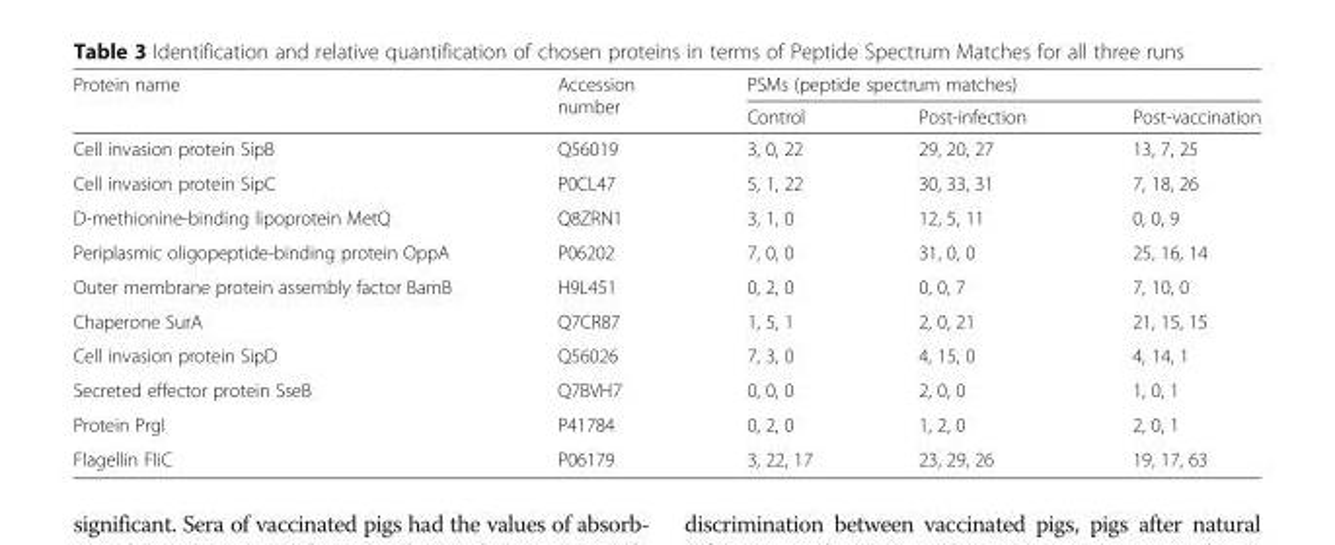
<table><thead><tr><td rowspan="2">Protein name</td><td rowspan="2">Accession number</td><td colspan="3">PSMs (peptide spectrum matches)</td></tr><tr><td>Control</td><td>Post-infection</td><td>Post-vaccination</td></tr></thead><tbody><tr><td>Cell invasion protein SipB</td><td>Q56019</td><td>3, 0, 22</td><td>29, 20, 27</td><td>13, 7, 25</td></tr><tr><td>Cell invasion protein SipC</td><td>P0CL47</td><td>5, 1, 22</td><td>30, 33, 31</td><td>7, 18, 26</td></tr><tr><td>D-methionine-binding lipoprotein MetQ</td><td>Q8ZRN1</td><td>3, 1, 0</td><td>12, 5, 11</td><td>0, 0, 9</td></tr><tr><td>Periplasmic oligopeptide-binding protein OppA</td><td>P06202</td><td>7, 0, 0</td><td>31, 0, 0</td><td>25, 16, 14</td></tr><tr><td>Outer membrane protein assembly factor BamB</td><td>H9L451</td><td>0, 2, 0</td><td>0, 0, 7</td><td>7, 10, 0</td></tr><tr><td>Chaperone SurA</td><td>Q7CR87</td><td>1, 5, 1</td><td>2, 0, 21</td><td>21, 15, 15</td></tr><tr><td>Cell invasion protein SipD</td><td>Q56026</td><td>7, 3, 0</td><td>4, 15, 0</td><td>4, 14, 1</td></tr><tr><td>Secreted effector protein SseB</td><td>Q7BVH7</td><td>0, 0, 0</td><td>2, 0, 0</td><td>1, 0, 1</td></tr><tr><td>Protein PrgI</td><td>P41784</td><td>0, 2, 0</td><td>1, 2, 0</td><td>2, 0, 1</td></tr><tr><td>Flagellin FliC</td><td>P06179</td><td>3, 22, 17</td><td>23, 29, 26</td><td>19, 17, 63</td></tr></tbody></table>